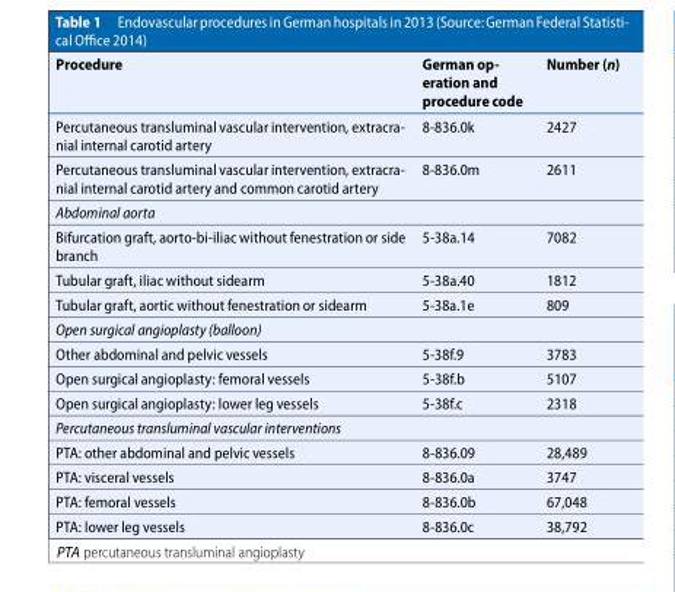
<table><thead><tr><td>Procedure</td><td>German op- eration and procedure code</td><td>Number (n)</td></tr></thead><tbody><tr><td>Percutaneous transluminal vascular intervention, extracra- nial internal carotid artery</td><td>8-836.0k</td><td>2427</td></tr><tr><td>Percutaneous transluminal vascular intervention, extracra- nial internal carotid artery and common carotid artery</td><td>8-836.0m</td><td>2611</td></tr><tr><td colspan="3">Abdominal aorta</td></tr><tr><td>Bifurcation graft, aorto-bi-iliac without fenestration or side branch</td><td>5-38a.14</td><td>7082</td></tr><tr><td>Tubular graft, iliac without sidearm</td><td>5-38a.40</td><td>1812</td></tr><tr><td>Tubular graft, aortic without fenestration or sidearm</td><td>5-38a.1e</td><td>809</td></tr><tr><td colspan="3">Open surgical angioplasty (balloon)</td></tr><tr><td>Other abdominal and pelvic vessels</td><td>5-38f.9</td><td>3783</td></tr><tr><td>Open surgical angioplasty: femoral vessels</td><td>5-38f.b</td><td>5107</td></tr><tr><td>Open surgical angioplasty: lower leg vessels</td><td>5-38f.c</td><td>2318</td></tr><tr><td colspan="3">Percutaneous transluminal vascular interventions</td></tr><tr><td>PTA: other abdominal and pelvic vessels</td><td>8-836.09</td><td>28,489</td></tr><tr><td>PTA: visceral vessels</td><td>8-836.0a</td><td>3747</td></tr><tr><td>PTA: femoral vessels</td><td>8-836.0b</td><td>67,048</td></tr><tr><td>PTA: lower leg vessels</td><td>8-836.0c</td><td>38,792</td></tr></tbody></table>